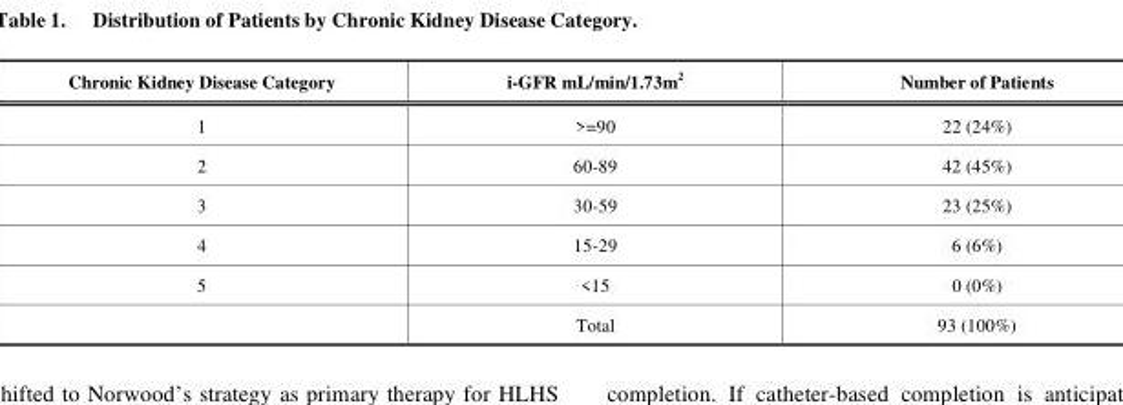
<table><thead><tr><td>Chronic Kidney Disease Category</td><td>i-GFR mL/min/1.73m<sup>2</sup></td><td>Number of Patients</td></tr></thead><tbody><tr><td>1</td><td>&gt;=90</td><td>22 (24%)</td></tr><tr><td>2</td><td>60-89</td><td>42 (45%)</td></tr><tr><td>3</td><td>30-59</td><td>23 (25%)</td></tr><tr><td>4</td><td>15-29</td><td>6 (6%)</td></tr><tr><td rowspan="2">5</td><td>&lt;15</td><td>0 (0%)</td></tr><tr><td>Total</td><td>93 (100%)</td></tr></tbody></table>